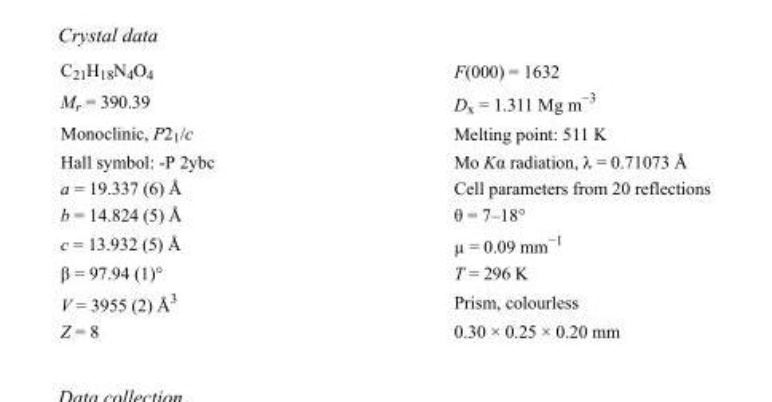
<table><tbody><tr><td>C<sub>21</sub>H<sub>18</sub>N<sub>4</sub>O<sub>4</sub></td><td>F(000) = 1632</td></tr><tr><td>M<sub>r</sub> = 390.39</td><td>D<sub>x</sub> = 1.311 Mg m<sup>−3</sup></td></tr><tr><td>Monoclinic, P2<sub>1</sub>/c</td><td>Melting point: 511 K</td></tr><tr><td>Hall symbol: -P 2ybc</td><td>Mo Kα radiation, λ = 0.71073 Å</td></tr><tr><td>a = 19.337 (6) Å</td><td>Cell parameters from 20 reflections</td></tr><tr><td>b = 14.824 (5) Å</td><td>θ = 7–18°</td></tr><tr><td>c = 13.932 (5) Å</td><td>µ = 0.09 mm<sup>−1</sup></td></tr><tr><td>β = 97.94 (1)°</td><td>T = 296 K</td></tr><tr><td>V = 3955 (2) Å<sup>3</sup></td><td>Prism, colourless</td></tr><tr><td>Z = 8</td><td>0.30 × 0.25 × 0.20 mm</td></tr></tbody></table>